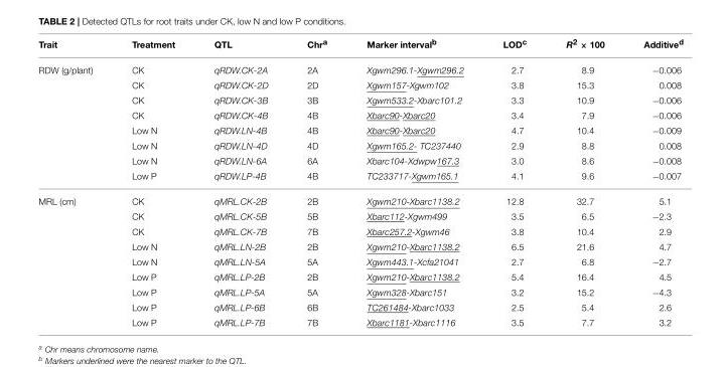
<table><thead><tr><td>Trait</td><td>Treatment</td><td>QTL</td><td>Chr<sup>a</sup></td><td>Marker interval<sup>b</sup></td><td>LOD<sup>c</sup></td><td>R<sup>2</sup> × 100</td><td>Additive<sup>d</sup></td></tr></thead><tbody><tr><td rowspan="8">RDW (g/plant)</td><td>CK</td><td>qRDW.CK-2A</td><td>2A</td><td>Xgwm296.1-Xgwm296.2</td><td>2.7</td><td>8.9</td><td>−0.006</td></tr><tr><td>CK</td><td>qRDW.CK-2D</td><td>2D</td><td>Xgwm157-Xgwm102</td><td>3.8</td><td>15.3</td><td>0.008</td></tr><tr><td>CK</td><td>qRDW.CK-3B</td><td>3B</td><td>Xgwm533.2-Xbarc101.2</td><td>3.3</td><td>10.9</td><td>−0.006</td></tr><tr><td>CK</td><td>qRDW.CK-4B</td><td>4B</td><td>Xbarc90-Xbarc20</td><td>3.4</td><td>7.9</td><td>−0.006</td></tr><tr><td>Low N</td><td>qRDW.LN-4B</td><td>4B</td><td>Xbarc90-Xbarc20</td><td>4.7</td><td>10.4</td><td>−0.009</td></tr><tr><td>Low N</td><td>qRDW.LN-4D</td><td>4D</td><td>Xgwm165.2- TC237440</td><td>2.9</td><td>8.8</td><td>0.008</td></tr><tr><td>Low N</td><td>qRDW.LN-6A</td><td>6A</td><td>Xbarc104-Xdwpw167.3</td><td>3.0</td><td>8.6</td><td>−0.008</td></tr><tr><td>Low P</td><td>qRDW.LP-4B</td><td>4B</td><td>TC233717-Xgwm165.1</td><td>4.1</td><td>9.6</td><td>−0.007</td></tr><tr><td rowspan="9">MRL (cm)</td><td>CK</td><td>qMRL.CK-2B</td><td>2B</td><td>Xgwm210-Xbarc1138.2</td><td>12.8</td><td>32.7</td><td>5.1</td></tr><tr><td>CK</td><td>qMRL.CK-5B</td><td>5B</td><td>Xbarc112-Xgwm499</td><td>3.5</td><td>6.5</td><td>−2.3</td></tr><tr><td>CK</td><td>qMRL.CK-7B</td><td>7B</td><td>Xbarc257.2-Xgwm46</td><td>3.8</td><td>10.4</td><td>2.9</td></tr><tr><td>Low N</td><td>qMRL.LN-2B</td><td>2B</td><td>Xgwm210-Xbarc1138.2</td><td>6.5</td><td>21.6</td><td>4.7</td></tr><tr><td>Low N</td><td>qMRL.LN-5A</td><td>5A</td><td>Xgwm443.1-Xcfa21041</td><td>2.7</td><td>6.8</td><td>−2.7</td></tr><tr><td>Low P</td><td>qMRL.LP-2B</td><td>2B</td><td>Xgwm210-Xbarc1138.2</td><td>5.4</td><td>16.4</td><td>4.5</td></tr><tr><td>Low P</td><td>qMRL.LP-5A</td><td>5A</td><td>Xgwm328-Xbarc151</td><td>3.2</td><td>15.2</td><td>−4.3</td></tr><tr><td>Low P</td><td>qMRL.LP-6B</td><td>6B</td><td>TC261484-Xbarc1033</td><td>2.5</td><td>5.4</td><td>2.6</td></tr><tr><td>Low P</td><td>qMRL.LP-7B</td><td>7B</td><td>Xbarc1181-Xbarc1116</td><td>3.5</td><td>7.7</td><td>3.2</td></tr></tbody></table>